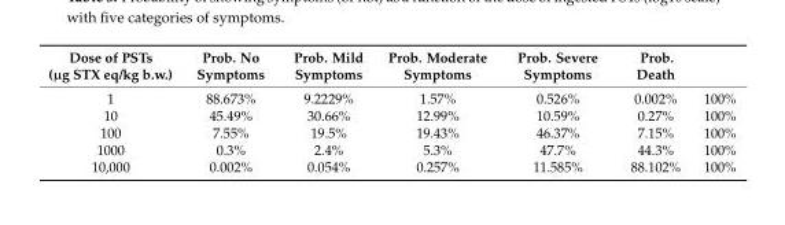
<table><thead><tr><td>Dose of PSTs (µg STX eq/kg b.w.)</td><td>Prob. No Symptoms</td><td>Prob. Mild Symptoms</td><td>Prob. Moderate Symptoms</td><td>Prob. Severe Symptoms</td><td>Prob. Death</td><td></td></tr></thead><tbody><tr><td>1</td><td>88.673%</td><td>9.2229%</td><td>1.57%</td><td>0.526%</td><td>0.002%</td><td>100%</td></tr><tr><td>10</td><td>45.49%</td><td>30.66%</td><td>12.99%</td><td>10.59%</td><td>0.27%</td><td>100%</td></tr><tr><td>100</td><td>7.55%</td><td>19.5%</td><td>19.43%</td><td>46.37%</td><td>7.15%</td><td>100%</td></tr><tr><td>1000</td><td>0.3%</td><td>2.4%</td><td>5.3%</td><td>47.7%</td><td>44.3%</td><td>100%</td></tr><tr><td>10,000</td><td>0.002%</td><td>0.054%</td><td>0.257%</td><td>11.585%</td><td>88.102%</td><td>100%</td></tr></tbody></table>